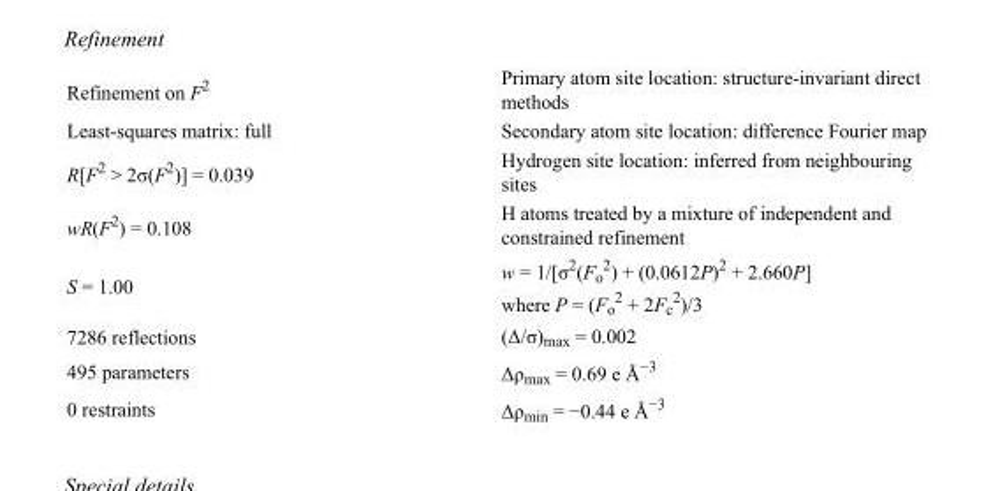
<table><tbody><tr><td>Refinement on F<sup>2</sup></td><td>Primary atom site location: structure-invariant direct methods</td></tr><tr><td>Least-squares matrix: full</td><td>Secondary atom site location: difference Fourier map</td></tr><tr><td>R[F<sup>2</sup> &gt; 2σ(F<sup>2</sup>)] = 0.039</td><td>Hydrogen site location: inferred from neighbouring sites</td></tr><tr><td>wR(F<sup>2</sup>) = 0.108</td><td>H atoms treated by a mixture of independent and constrained refinement</td></tr><tr><td>S = 1.00</td><td>w = 1/[σ<sup>2</sup>(F<sub>o</sub> <sup>2</sup>) + (0.0612P)<sup>2</sup> + 2.660P] where P = (F<sub>o</sub> <sup>2</sup> + 2F<sub>c</sub> <sup>2</sup>)/3</td></tr><tr><td>7286 reflections</td><td>(Δ/σ)<sub>max</sub> = 0.002</td></tr><tr><td>495 parameters</td><td>Δρ<sub>max</sub> = 0.69 e Å<sup>−3</sup></td></tr><tr><td>0 restraints</td><td>Δρ<sub>min</sub> = −0.44 e Å<sup>−3</sup></td></tr></tbody></table>